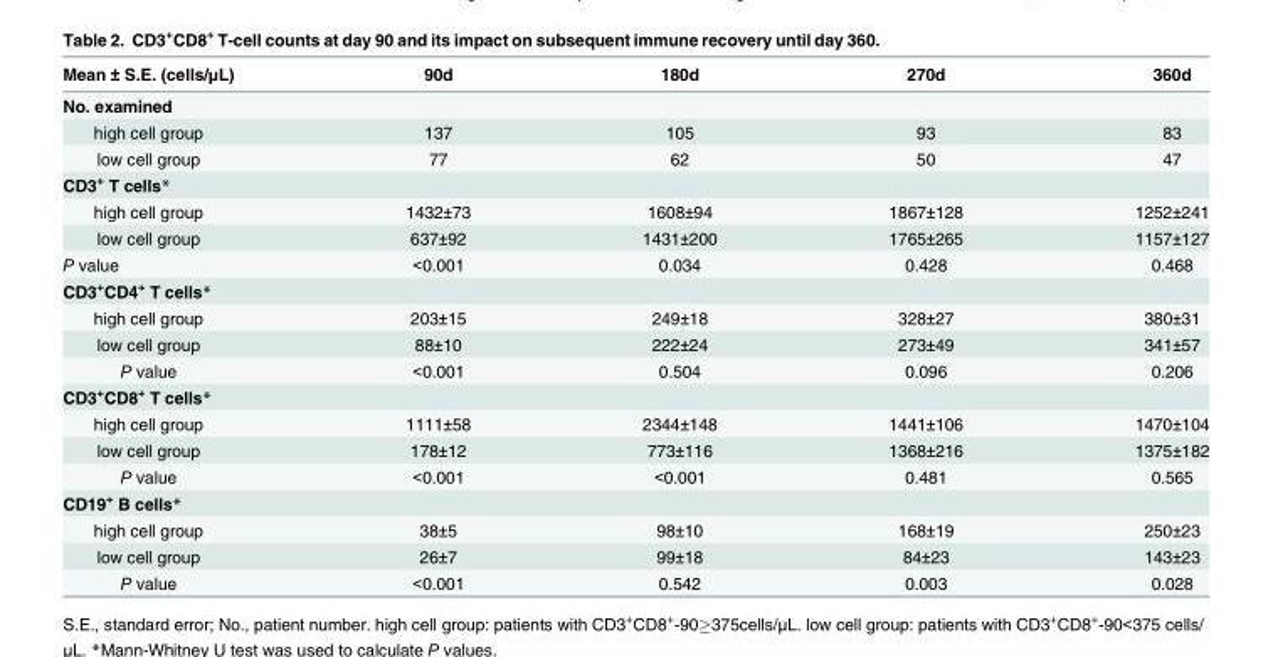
<table><thead><tr><td>Mean ± S.E. (cells/μL)</td><td>90d</td><td>180d</td><td>270d</td><td>360d</td></tr></thead><tbody><tr><td colspan="5">No. examined</td></tr><tr><td>high cell group</td><td>137</td><td>105</td><td>93</td><td>83</td></tr><tr><td>low cell group</td><td>77</td><td>62</td><td>50</td><td>47</td></tr><tr><td colspan="5">CD3<sup>+</sup> T cells*</td></tr><tr><td>high cell group</td><td>1432±73</td><td>1608±94</td><td>1867±128</td><td>1252±241</td></tr><tr><td>low cell group</td><td>637±92</td><td>1431±200</td><td>1765±265</td><td>1157±127</td></tr><tr><td>P value</td><td>&lt;0.001</td><td>0.034</td><td>0.428</td><td>0.468</td></tr><tr><td colspan="5">CD3<sup>+</sup>CD4<sup>+</sup> T cells*</td></tr><tr><td>high cell group</td><td>203±15</td><td>249±18</td><td>328±27</td><td>380±31</td></tr><tr><td>low cell group</td><td>88±10</td><td>222±24</td><td>273±49</td><td>341±57</td></tr><tr><td>P value</td><td>&lt;0.001</td><td>0.504</td><td>0.096</td><td>0.206</td></tr><tr><td colspan="5">CD3<sup>+</sup>CD8<sup>+</sup> T cells*</td></tr><tr><td>high cell group</td><td>1111±58</td><td>2344±148</td><td>1441±106</td><td>1470±104</td></tr><tr><td>low cell group</td><td>178±12</td><td>773±116</td><td>1368±216</td><td>1375±182</td></tr><tr><td>P value</td><td>&lt;0.001</td><td>&lt;0.001</td><td>0.481</td><td>0.565</td></tr><tr><td colspan="5">CD19<sup>+</sup> B cells*</td></tr><tr><td>high cell group</td><td>38±5</td><td>98±10</td><td>168±19</td><td>250±23</td></tr><tr><td>low cell group</td><td>26±7</td><td>99±18</td><td>84±23</td><td>143±23</td></tr><tr><td>P value</td><td>&lt;0.001</td><td>0.542</td><td>0.003</td><td>0.028</td></tr></tbody></table>